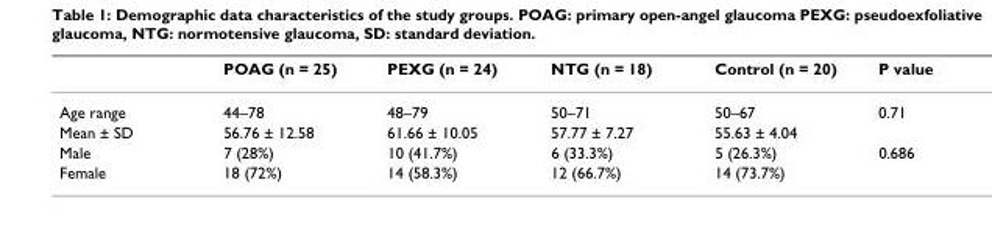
<table><thead><tr><td></td><td>POAG (n = 25)</td><td>PEXG (n = 24)</td><td>NTG (n = 18)</td><td>Control (n = 20)</td><td>P value</td></tr></thead><tbody><tr><td>Age range</td><td>44–78</td><td>48–79</td><td>50–71</td><td>50–67</td><td>0.71</td></tr><tr><td>Mean ± SD</td><td>56.76 ± 12.58</td><td>61.66 ± 10.05</td><td>57.77 ± 7.27</td><td>55.63 ± 4.04</td><td></td></tr><tr><td>Male</td><td>7 (28%)</td><td>10 (41.7%)</td><td>6 (33.3%)</td><td>5 (26.3%)</td><td>0.686</td></tr><tr><td>Female</td><td>18 (72%)</td><td>14 (58.3%)</td><td>12 (66.7%)</td><td>14 (73.7%)</td><td></td></tr></tbody></table>